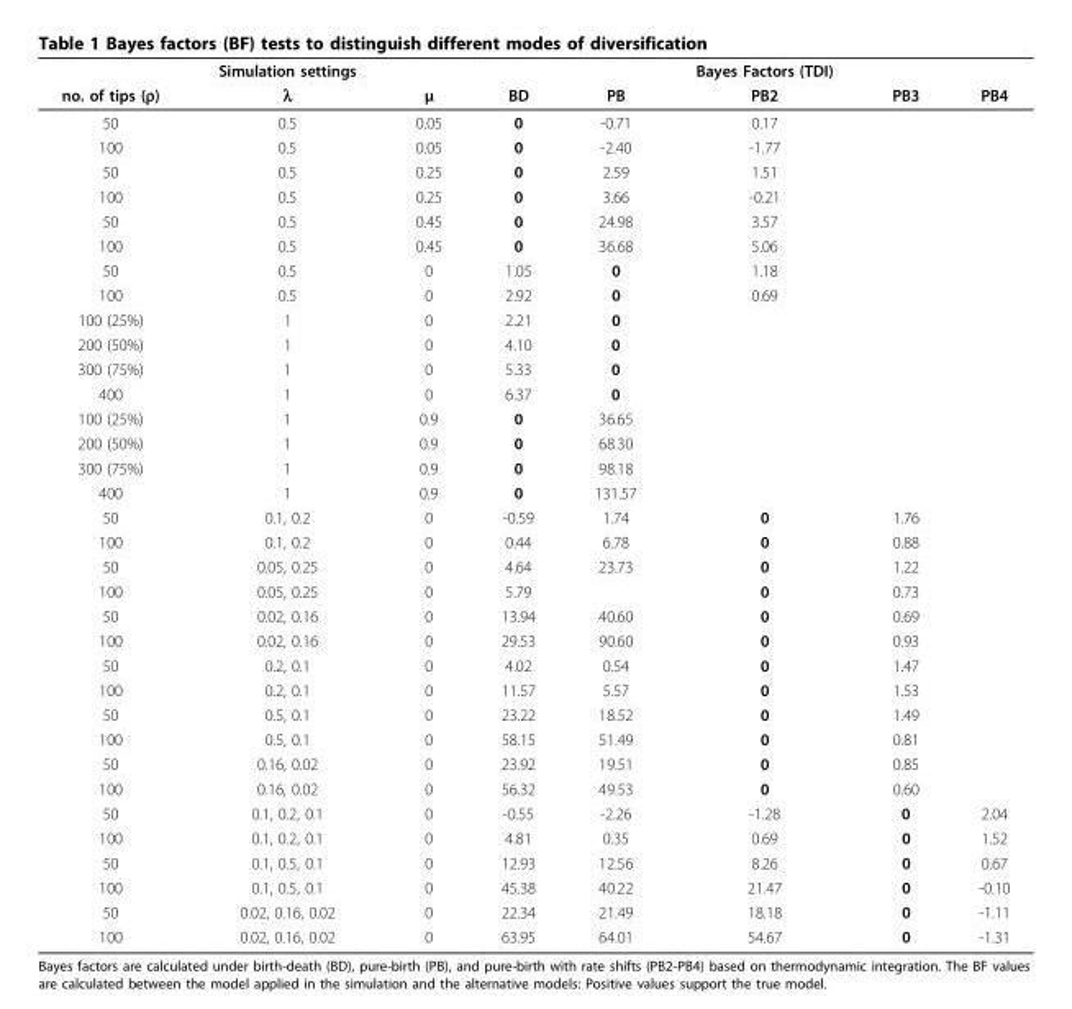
<table><thead><tr><td rowspan="2">no. of tips (ρ)</td><td rowspan="2">Simulation settings λ</td><td rowspan="2">μ</td><td rowspan="2">BD</td><td rowspan="2">PB</td><td rowspan="2">Bayes Factors (TDI) PB2</td><td rowspan="2">PB3</td><td rowspan="2">PB4</td></tr><tr></tr></thead><tbody><tr><td>50</td><td>0.5</td><td>0.05</td><td>0</td><td>-0.71</td><td>0.17</td><td></td><td></td></tr><tr><td>100</td><td>0.5</td><td>0.05</td><td>0</td><td>-2.40</td><td>-1.77</td><td></td><td></td></tr><tr><td>50</td><td>0.5</td><td>0.25</td><td>0</td><td>2.59</td><td>1.51</td><td></td><td></td></tr><tr><td>100</td><td>0.5</td><td>0.25</td><td>0</td><td>3.66</td><td>-0.21</td><td></td><td></td></tr><tr><td>50</td><td>0.5</td><td>0.45</td><td>0</td><td>24.98</td><td>3.57</td><td></td><td></td></tr><tr><td>100</td><td>0.5</td><td>0.45</td><td>0</td><td>36.68</td><td>5.06</td><td></td><td></td></tr><tr><td>50</td><td>0.5</td><td>0</td><td>1.05</td><td>0</td><td>1.18</td><td></td><td></td></tr><tr><td>100</td><td>0.5</td><td>0</td><td>2.92</td><td>0</td><td>0.69</td><td></td><td></td></tr><tr><td>100 (25%)</td><td>1</td><td>0</td><td>2.21</td><td>0</td><td></td><td></td><td></td></tr><tr><td>200 (50%)</td><td>1</td><td>0</td><td>4.10</td><td>0</td><td></td><td></td><td></td></tr><tr><td>300 (75%)</td><td>1</td><td>0</td><td>5.33</td><td>0</td><td></td><td></td><td></td></tr><tr><td>400</td><td>1</td><td>0</td><td>6.37</td><td>0</td><td></td><td></td><td></td></tr><tr><td>100 (25%)</td><td>1</td><td>0.9</td><td>0</td><td>36.65</td><td></td><td></td><td></td></tr><tr><td>200 (50%)</td><td>1</td><td>0.9</td><td>0</td><td>68.30</td><td></td><td></td><td></td></tr><tr><td>300 (75%)</td><td>1</td><td>0.9</td><td>0</td><td>98.18</td><td></td><td></td><td></td></tr><tr><td>400</td><td>1</td><td>0.9</td><td>0</td><td>131.57</td><td></td><td></td><td></td></tr><tr><td>50</td><td>0.1, 0.2</td><td>0</td><td>-0.59</td><td>1.74</td><td>0</td><td>1.76</td><td></td></tr><tr><td>100</td><td>0.1, 0.2</td><td>0</td><td>0.44</td><td>6.78</td><td>0</td><td>0.88</td><td></td></tr><tr><td>50</td><td>0.05, 0.25</td><td>0</td><td>4.64</td><td>23.73</td><td>0</td><td>1.22</td><td></td></tr><tr><td>100</td><td>0.05, 0.25</td><td>0</td><td>5.79</td><td></td><td>0</td><td>0.73</td><td></td></tr><tr><td>50</td><td>0.02, 0.16</td><td>0</td><td>13.94</td><td>40.60</td><td>0</td><td>0.69</td><td></td></tr><tr><td>100</td><td>0.02, 0.16</td><td>0</td><td>29.53</td><td>90.60</td><td>0</td><td>0.93</td><td></td></tr><tr><td>50</td><td>0.2, 0.1</td><td>0</td><td>4.02</td><td>0.54</td><td>0</td><td>1.47</td><td></td></tr><tr><td>100</td><td>0.2, 0.1</td><td>0</td><td>11.57</td><td>5.57</td><td>0</td><td>1.53</td><td></td></tr><tr><td>50</td><td>0.5, 0.1</td><td>0</td><td>23.22</td><td>18.52</td><td>0</td><td>1.49</td><td></td></tr><tr><td>100</td><td>0.5, 0.1</td><td>0</td><td>58.15</td><td>51.49</td><td>0</td><td>0.81</td><td></td></tr><tr><td>50</td><td>0.16, 0.02</td><td>0</td><td>23.92</td><td>19.51</td><td>0</td><td>0.85</td><td></td></tr><tr><td>100</td><td>0.16, 0.02</td><td>0</td><td>56.32</td><td>49.53</td><td>0</td><td>0.60</td><td></td></tr><tr><td>50</td><td>0.1, 0.2, 0.1</td><td>0</td><td>-0.55</td><td>-2.26</td><td>-1.28</td><td>0</td><td>2.04</td></tr><tr><td>100</td><td>0.1, 0.2, 0.1</td><td>0</td><td>4.81</td><td>0.35</td><td>0.69</td><td>0</td><td>1.52</td></tr><tr><td>50</td><td>0.1, 0.5, 0.1</td><td>0</td><td>12.93</td><td>12.56</td><td>8.26</td><td>0</td><td>0.67</td></tr><tr><td>100</td><td>0.1, 0.5, 0.1</td><td>0</td><td>45.38</td><td>40.22</td><td>21.47</td><td>0</td><td>-0.10</td></tr><tr><td>50</td><td>0.02, 0.16, 0.02</td><td>0</td><td>22.34</td><td>21.49</td><td>18.18</td><td>0</td><td>-1.11</td></tr><tr><td>100</td><td>0.02, 0.16, 0.02</td><td>0</td><td>63.95</td><td>64.01</td><td>54.67</td><td>0</td><td>-1.31</td></tr></tbody></table>